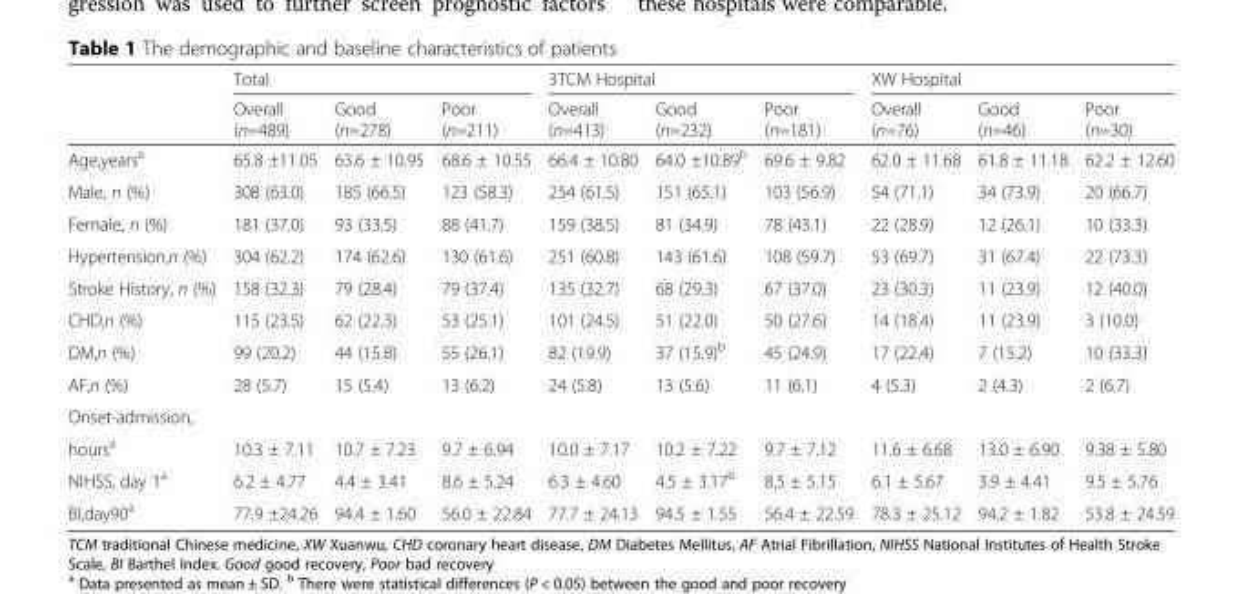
<table><thead><tr><td rowspan="2"></td><td colspan="3">Total</td><td colspan="3">3TCM Hospital</td><td colspan="3">XW Hospital</td></tr><tr><td>Overall (n=489)</td><td>Good (n=278)</td><td>Poor (n=211)</td><td>Overall (n=413)</td><td>Good (n=232)</td><td>Poor (n=181)</td><td>Overall (n=76)</td><td>Good (n=46)</td><td>Poor (n=30)</td></tr></thead><tbody><tr><td>Age,years<sup>a</sup></td><td>65.8 ±11.05</td><td>63.6 ± 10.95</td><td>68.6 ± 10.55</td><td>66.4 ± 10.80</td><td>64.0 ±10.89<sup>b</sup></td><td>69.6 ± 9.82</td><td>62.0 ± 11.68</td><td>61.8 ± 11.18</td><td>62.2 ± 12.60</td></tr><tr><td>Male, n (%)</td><td>308 (63.0)</td><td>185 (66.5)</td><td>123 (58.3)</td><td>254 (61.5)</td><td>151 (65.1)</td><td>103 (56.9)</td><td>54 (71.1)</td><td>34 (73.9)</td><td>20 (66.7)</td></tr><tr><td>Female, n (%)</td><td>181 (37.0)</td><td>93 (33.5)</td><td>88 (41.7)</td><td>159 (38.5)</td><td>81 (34.9)</td><td>78 (43.1)</td><td>22 (28.9)</td><td>12 (26.1)</td><td>10 (33.3)</td></tr><tr><td>Hypertension,n (%)</td><td>304 (62.2)</td><td>174 (62.6)</td><td>130 (61.6)</td><td>251 (60.8)</td><td>143 (61.6)</td><td>108 (59.7)</td><td>53 (69.7)</td><td>31 (67.4)</td><td>22 (73.3)</td></tr><tr><td>Stroke History, n (%)</td><td>158 (32.3)</td><td>79 (28.4)</td><td>79 (37.4)</td><td>135 (32.7)</td><td>68 (29.3)</td><td>67 (37.0)</td><td>23 (30.3)</td><td>11 (23.9)</td><td>12 (40.0)</td></tr><tr><td>CHD,n (%)</td><td>115 (23.5)</td><td>62 (22.3)</td><td>53 (25.1)</td><td>101 (24.5)</td><td>51 (22.0)</td><td>50 (27.6)</td><td>14 (18.4)</td><td>11 (23.9)</td><td>3 (10.0)</td></tr><tr><td>DM,n (%)</td><td>99 (20.2)</td><td>44 (15.8)</td><td>55 (26.1)</td><td>82 (19.9)</td><td>37 (15.9)<sup>b</sup></td><td>45 (24.9)</td><td>17 (22.4)</td><td>7 (15.2)</td><td>10 (33.3)</td></tr><tr><td>AF,n (%)</td><td>28 (5.7)</td><td>15 (5.4)</td><td>13 (6.2)</td><td>24 (5.8)</td><td>13 (5.6)</td><td>11 (6.1)</td><td>4 (5.3)</td><td>2 (4.3)</td><td>2 (6.7)</td></tr><tr><td colspan="10">Onset-admission,</td></tr><tr><td>hours<sup>a</sup></td><td>10.3 ± 7.11</td><td>10.7 ± 7.23</td><td>9.7 ± 6.94</td><td>10.0 ± 7.17</td><td>10.2 ± 7.22</td><td>9.7 ± 7.12</td><td>11.6 ± 6.68</td><td>13.0 ± 6.90</td><td>9.38 ± 5.80</td></tr><tr><td>NIHSS, day 1<sup>a</sup></td><td>6.2 ± 4.77</td><td>4.4 ± 3.41</td><td>8.6 ± 5.24</td><td>6.3 ± 4.60</td><td>4.5 ± 3.17<sup>b</sup></td><td>8.5 ± 5.15</td><td>6.1 ± 5.67</td><td>3.9 ± 4.41</td><td>9.5 ± 5.76</td></tr><tr><td>BI,day90<sup>a</sup></td><td>77.9 ±24.26</td><td>94.4 ± 1.60</td><td>56.0 ± 22.84</td><td>77.7 ± 24.13</td><td>94.5 ± 1.55</td><td>56.4 ± 22.59</td><td>78.3 ± 25.12</td><td>94.2 ± 1.82</td><td>53.8 ± 24.59</td></tr></tbody></table>